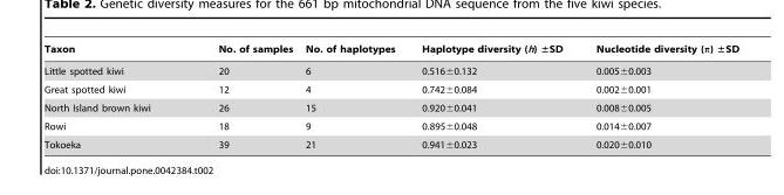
<table><thead><tr><td>Taxon</td><td>No. of samples</td><td>No. of haplotypes</td><td>Haplotype diversity (h) ±SD</td><td>Nucleotide diversity (π) ±SD</td></tr></thead><tbody><tr><td>Little spotted kiwi</td><td>20</td><td>6</td><td>0.516±0.132</td><td>0.005±0.003</td></tr><tr><td>Great spotted kiwi</td><td>12</td><td>4</td><td>0.742±0.084</td><td>0.002±0.001</td></tr><tr><td>North Island brown kiwi</td><td>26</td><td>15</td><td>0.920±0.041</td><td>0.008±0.005</td></tr><tr><td>Rowi</td><td>18</td><td>9</td><td>0.895±0.048</td><td>0.014±0.007</td></tr><tr><td>Tokoeka</td><td>39</td><td>21</td><td>0.941±0.023</td><td>0.020±0.010</td></tr></tbody></table>